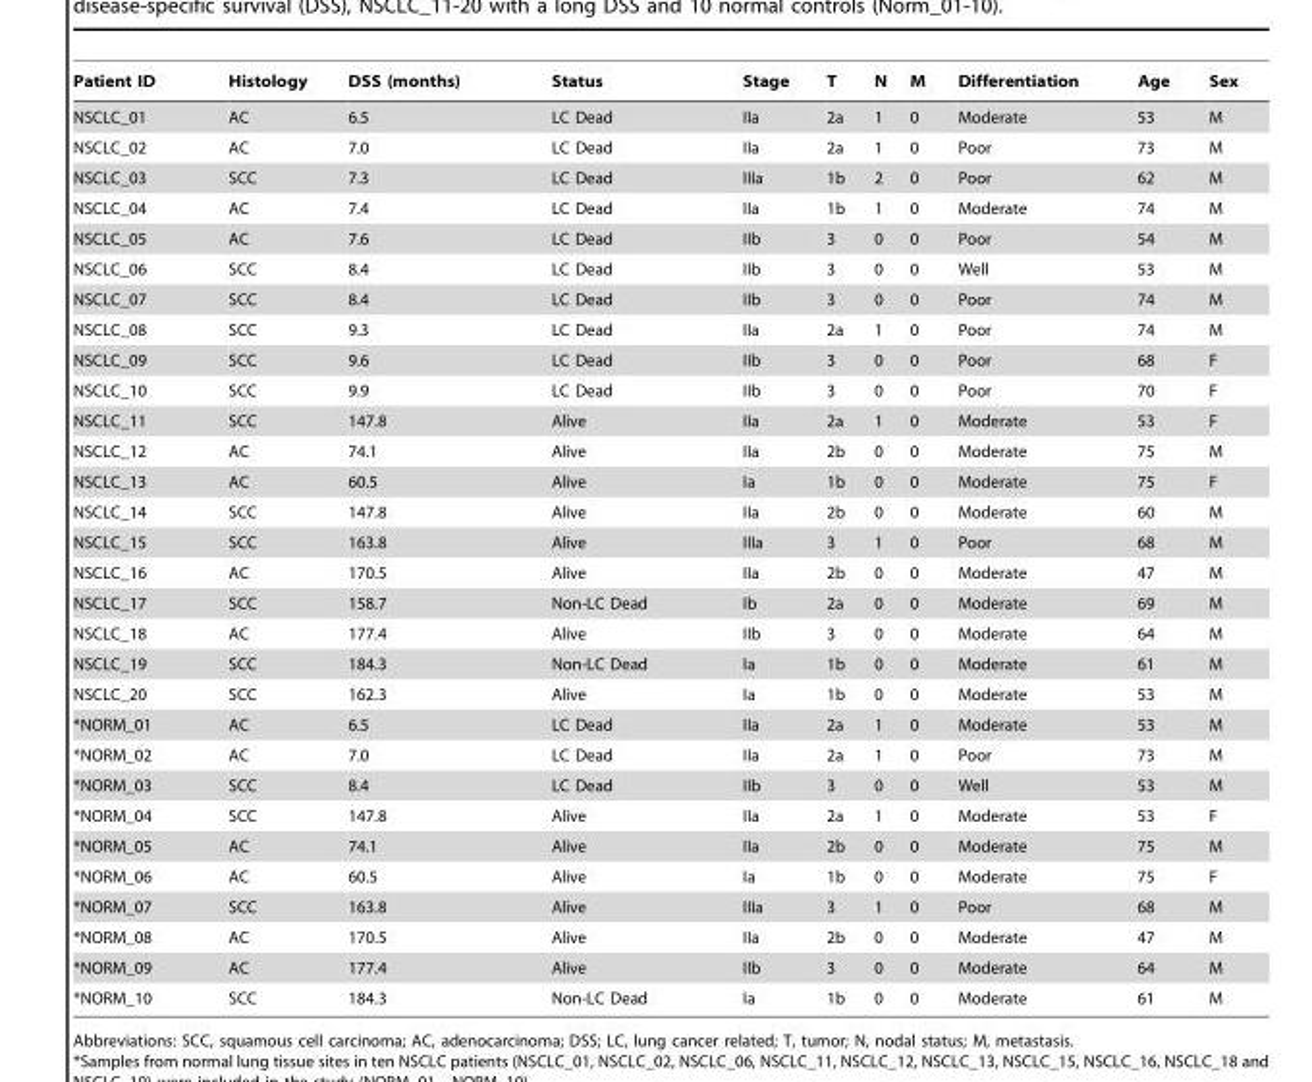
<table><thead><tr><td>Patient ID</td><td>Histology</td><td>DSS (months)</td><td>Status</td><td>Stage</td><td>T</td><td>N</td><td>M</td><td>Differentiation</td><td>Age</td><td>Sex</td></tr></thead><tbody><tr><td>NSCLC_01</td><td>AC</td><td>6.5</td><td>LC Dead</td><td>IIa</td><td>2a</td><td>1</td><td>0</td><td>Moderate</td><td>53</td><td>M</td></tr><tr><td>NSCLC_02</td><td>AC</td><td>7.0</td><td>LC Dead</td><td>IIa</td><td>2a</td><td>1</td><td>0</td><td>Poor</td><td>73</td><td>M</td></tr><tr><td>NSCLC_03</td><td>SCC</td><td>7.3</td><td>LC Dead</td><td>IIIa</td><td>1b</td><td>2</td><td>0</td><td>Poor</td><td>62</td><td>M</td></tr><tr><td>NSCLC_04</td><td>AC</td><td>7.4</td><td>LC Dead</td><td>IIa</td><td>1b</td><td>1</td><td>0</td><td>Moderate</td><td>74</td><td>M</td></tr><tr><td>NSCLC_05</td><td>AC</td><td>7.6</td><td>LC Dead</td><td>IIb</td><td>3</td><td>0</td><td>0</td><td>Poor</td><td>54</td><td>M</td></tr><tr><td>NSCLC_06</td><td>SCC</td><td>8.4</td><td>LC Dead</td><td>IIb</td><td>3</td><td>0</td><td>0</td><td>Well</td><td>53</td><td>M</td></tr><tr><td>NSCLC_07</td><td>SCC</td><td>8.4</td><td>LC Dead</td><td>IIb</td><td>3</td><td>0</td><td>0</td><td>Poor</td><td>74</td><td>M</td></tr><tr><td>NSCLC_08</td><td>SCC</td><td>9.3</td><td>LC Dead</td><td>IIa</td><td>2a</td><td>1</td><td>0</td><td>Poor</td><td>74</td><td>M</td></tr><tr><td>NSCLC_09</td><td>SCC</td><td>9.6</td><td>LC Dead</td><td>IIb</td><td>3</td><td>0</td><td>0</td><td>Poor</td><td>68</td><td>F</td></tr><tr><td>NSCLC_10</td><td>SCC</td><td>9.9</td><td>LC Dead</td><td>IIb</td><td>3</td><td>0</td><td>0</td><td>Poor</td><td>70</td><td>F</td></tr><tr><td>NSCLC_11</td><td>SCC</td><td>147.8</td><td>Alive</td><td>IIa</td><td>2a</td><td>1</td><td>0</td><td>Moderate</td><td>53</td><td>F</td></tr><tr><td>NSCLC_12</td><td>AC</td><td>74.1</td><td>Alive</td><td>IIa</td><td>2b</td><td>0</td><td>0</td><td>Moderate</td><td>75</td><td>M</td></tr><tr><td>NSCLC_13</td><td>AC</td><td>60.5</td><td>Alive</td><td>Ia</td><td>1b</td><td>0</td><td>0</td><td>Moderate</td><td>75</td><td>F</td></tr><tr><td>NSCLC_14</td><td>SCC</td><td>147.8</td><td>Alive</td><td>IIa</td><td>2b</td><td>0</td><td>0</td><td>Moderate</td><td>60</td><td>M</td></tr><tr><td>NSCLC_15</td><td>SCC</td><td>163.8</td><td>Alive</td><td>IIIa</td><td>3</td><td>1</td><td>0</td><td>Poor</td><td>68</td><td>M</td></tr><tr><td>NSCLC_16</td><td>AC</td><td>170.5</td><td>Alive</td><td>IIa</td><td>2b</td><td>0</td><td>0</td><td>Moderate</td><td>47</td><td>M</td></tr><tr><td>NSCLC_17</td><td>SCC</td><td>158.7</td><td>Non-LC Dead</td><td>Ib</td><td>2a</td><td>0</td><td>0</td><td>Moderate</td><td>69</td><td>M</td></tr><tr><td>NSCLC_18</td><td>AC</td><td>177.4</td><td>Alive</td><td>IIb</td><td>3</td><td>0</td><td>0</td><td>Moderate</td><td>64</td><td>M</td></tr><tr><td>NSCLC_19</td><td>SCC</td><td>184.3</td><td>Non-LC Dead</td><td>Ia</td><td>1b</td><td>0</td><td>0</td><td>Moderate</td><td>61</td><td>M</td></tr><tr><td>NSCLC_20</td><td>SCC</td><td>162.3</td><td>Alive</td><td>Ia</td><td>1b</td><td>0</td><td>0</td><td>Moderate</td><td>53</td><td>M</td></tr><tr><td>*NORM_01</td><td>AC</td><td>6.5</td><td>LC Dead</td><td>IIa</td><td>2a</td><td>1</td><td>0</td><td>Moderate</td><td>53</td><td>M</td></tr><tr><td>*NORM_02</td><td>AC</td><td>7.0</td><td>LC Dead</td><td>IIa</td><td>2a</td><td>1</td><td>0</td><td>Poor</td><td>73</td><td>M</td></tr><tr><td>*NORM_03</td><td>SCC</td><td>8.4</td><td>LC Dead</td><td>IIb</td><td>3</td><td>0</td><td>0</td><td>Well</td><td>53</td><td>M</td></tr><tr><td>*NORM_04</td><td>SCC</td><td>147.8</td><td>Alive</td><td>IIa</td><td>2a</td><td>1</td><td>0</td><td>Moderate</td><td>53</td><td>F</td></tr><tr><td>*NORM_05</td><td>AC</td><td>74.1</td><td>Alive</td><td>IIa</td><td>2b</td><td>0</td><td>0</td><td>Moderate</td><td>75</td><td>M</td></tr><tr><td>*NORM_06</td><td>AC</td><td>60.5</td><td>Alive</td><td>Ia</td><td>1b</td><td>0</td><td>0</td><td>Moderate</td><td>75</td><td>F</td></tr><tr><td>*NORM_07</td><td>SCC</td><td>163.8</td><td>Alive</td><td>IIIa</td><td>3</td><td>1</td><td>0</td><td>Poor</td><td>68</td><td>M</td></tr><tr><td>*NORM_08</td><td>AC</td><td>170.5</td><td>Alive</td><td>IIa</td><td>2b</td><td>0</td><td>0</td><td>Moderate</td><td>47</td><td>M</td></tr><tr><td>*NORM_09</td><td>AC</td><td>177.4</td><td>Alive</td><td>IIb</td><td>3</td><td>0</td><td>0</td><td>Moderate</td><td>64</td><td>M</td></tr><tr><td>*NORM_10</td><td>SCC</td><td>184.3</td><td>Non-LC Dead</td><td>Ia</td><td>1b</td><td>0</td><td>0</td><td>Moderate</td><td>61</td><td>M</td></tr></tbody></table>